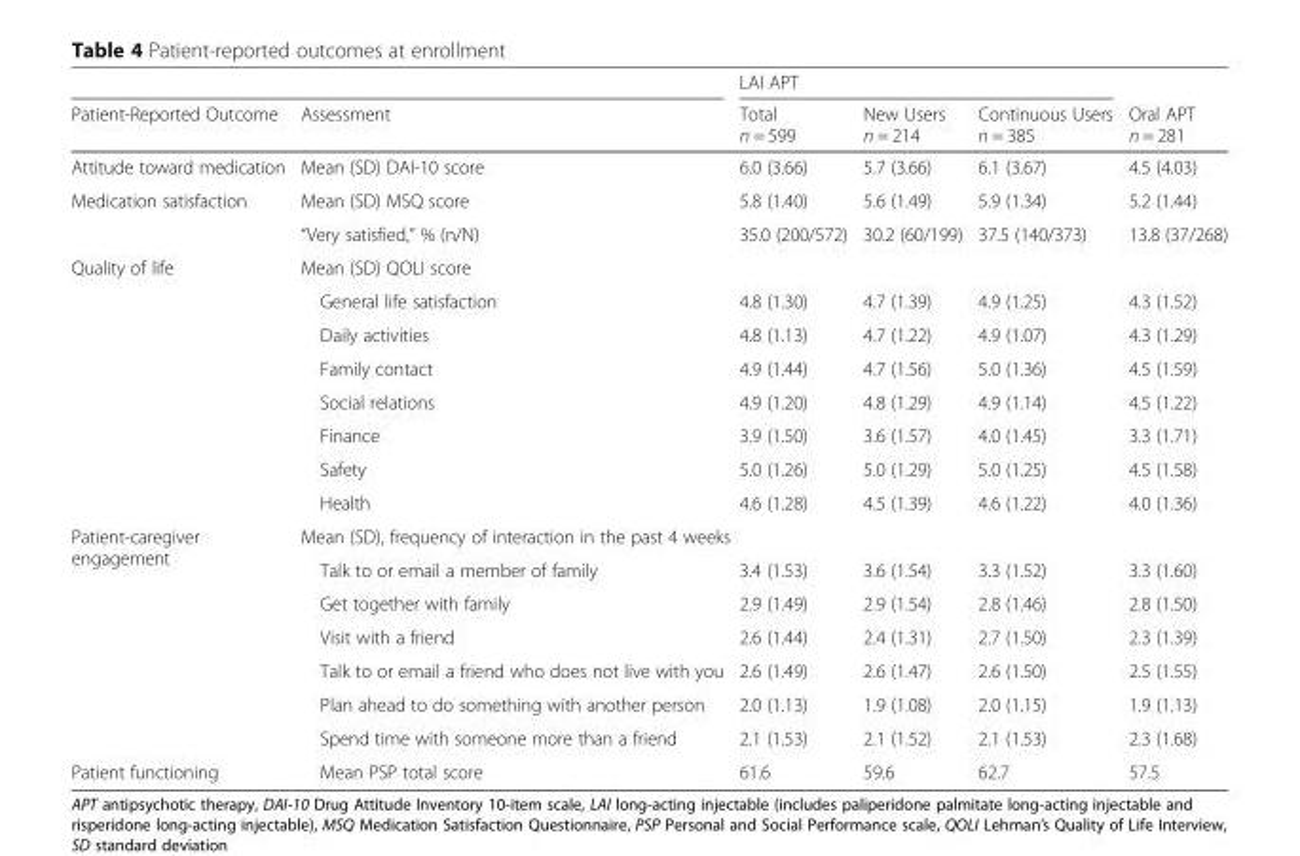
<table><thead><tr><td rowspan="2">Patient-Reported Outcome</td><td rowspan="2">Assessment</td><td colspan="3">LAI APT</td><td rowspan="2">Oral APT n = 281</td></tr><tr><td>Total n = 599</td><td>New Users n = 214</td><td>Continuous Users n = 385</td></tr></thead><tbody><tr><td>Attitude toward medication</td><td>Mean (SD) DAI-10 score</td><td>6.0 (3.66)</td><td>5.7 (3.66)</td><td>6.1 (3.67)</td><td>4.5 (4.03)</td></tr><tr><td rowspan="2">Medication satisfaction</td><td>Mean (SD) MSQ score</td><td>5.8 (1.40)</td><td>5.6 (1.49)</td><td>5.9 (1.34)</td><td>5.2 (1.44)</td></tr><tr><td>“Very satisfied,” % (n/N)</td><td>35.0 (200/572)</td><td>30.2 (60/199)</td><td>37.5 (140/373)</td><td>13.8 (37/268)</td></tr><tr><td rowspan="8">Quality of life</td><td colspan="5">Mean (SD) QOLI score</td></tr><tr><td>General life satisfaction</td><td>4.8 (1.30)</td><td>4.7 (1.39)</td><td>4.9 (1.25)</td><td>4.3 (1.52)</td></tr><tr><td>Daily activities</td><td>4.8 (1.13)</td><td>4.7 (1.22)</td><td>4.9 (1.07)</td><td>4.3 (1.29)</td></tr><tr><td>Family contact</td><td>4.9 (1.44)</td><td>4.7 (1.56)</td><td>5.0 (1.36)</td><td>4.5 (1.59)</td></tr><tr><td>Social relations</td><td>4.9 (1.20)</td><td>4.8 (1.29)</td><td>4.9 (1.14)</td><td>4.5 (1.22)</td></tr><tr><td>Finance</td><td>3.9 (1.50)</td><td>3.6 (1.57)</td><td>4.0 (1.45)</td><td>3.3 (1.71)</td></tr><tr><td>Safety</td><td>5.0 (1.26)</td><td>5.0 (1.29)</td><td>5.0 (1.25)</td><td>4.5 (1.58)</td></tr><tr><td>Health</td><td>4.6 (1.28)</td><td>4.5 (1.39)</td><td>4.6 (1.22)</td><td>4.0 (1.36)</td></tr><tr><td rowspan="7">Patient-caregiver engagement</td><td colspan="5">Mean (SD), frequency of interaction in the past 4 weeks</td></tr><tr><td>Talk to or email a member of family</td><td>3.4 (1.53)</td><td>3.6 (1.54)</td><td>3.3 (1.52)</td><td>3.3 (1.60)</td></tr><tr><td>Get together with family</td><td>2.9 (1.49)</td><td>2.9 (1.54)</td><td>2.8 (1.46)</td><td>2.8 (1.50)</td></tr><tr><td>Visit with a friend</td><td>2.6 (1.44)</td><td>2.4 (1.31)</td><td>2.7 (1.50)</td><td>2.3 (1.39)</td></tr><tr><td>Talk to or email a friend who does not live with you</td><td>2.6 (1.49)</td><td>2.6 (1.47)</td><td>2.6 (1.50)</td><td>2.5 (1.55)</td></tr><tr><td>Plan ahead to do something with another person</td><td>2.0 (1.13)</td><td>1.9 (1.08)</td><td>2.0 (1.15)</td><td>1.9 (1.13)</td></tr><tr><td>Spend time with someone more than a friend</td><td>2.1 (1.53)</td><td>2.1 (1.52)</td><td>2.1 (1.53)</td><td>2.3 (1.68)</td></tr><tr><td>Patient functioning</td><td>Mean PSP total score</td><td>61.6</td><td>59.6</td><td>62.7</td><td>57.5</td></tr></tbody></table>